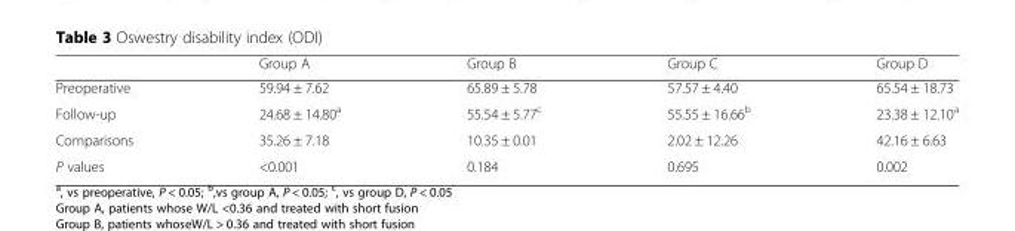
<table><thead><tr><td></td><td>Group A</td><td>Group B</td><td>Group C</td><td>Group D</td></tr></thead><tbody><tr><td>Preoperative</td><td>59.94 ± 7.62</td><td>65.89 ± 5.78</td><td>57.57 ± 4.40</td><td>65.54 ± 18.73</td></tr><tr><td>Follow-up</td><td>24.68 ± 14.80<sup>a</sup></td><td>55.54 ± 5.77<sup>c</sup></td><td>55.55 ± 16.66<sup>b</sup></td><td>23.38 ± 12.10<sup>a</sup></td></tr><tr><td>Comparisons</td><td>35.26 ± 7.18</td><td>10.35 ± 0.01</td><td>2.02 ± 12.26</td><td>42.16 ± 6.63</td></tr><tr><td>P values</td><td>&lt;0.001</td><td>0.184</td><td>0.695</td><td>0.002</td></tr></tbody></table>